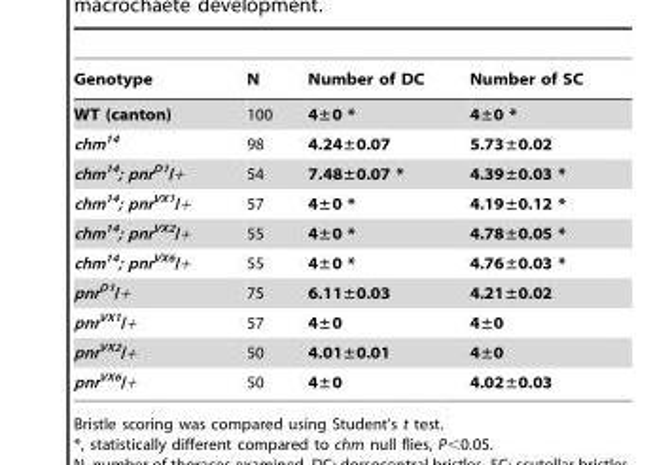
<table><thead><tr><td>Genotype</td><td>N</td><td>Number of DC</td><td>Number of SC</td></tr></thead><tbody><tr><td>WT (canton)</td><td>100</td><td>4±0 *</td><td>4±0 *</td></tr><tr><td>chm<sup>14</sup></td><td>98</td><td>4.24±0.07</td><td>5.73±0.02</td></tr><tr><td>chm<sup>14</sup>; pnr<sup>D1</sup>/+</td><td>54</td><td>7.48±0.07 *</td><td>4.39±0.03 *</td></tr><tr><td>chm<sup>14</sup>; pnr<sup>VX1</sup>/+</td><td>57</td><td>4±0 *</td><td>4.19±0.12 *</td></tr><tr><td>chm<sup>14</sup>; pnr<sup>VX2</sup>/+</td><td>55</td><td>4±0 *</td><td>4.78±0.05 *</td></tr><tr><td>chm<sup>14</sup>; pnr<sup>VX6</sup>/+</td><td>55</td><td>4±0 *</td><td>4.76±0.03 *</td></tr><tr><td>pnr<sup>D1</sup>/+</td><td>75</td><td>6.11±0.03</td><td>4.21±0.02</td></tr><tr><td>pnr<sup>VX1</sup>/+</td><td>57</td><td>4±0</td><td>4±0</td></tr><tr><td>pnr<sup>VX2</sup>/+</td><td>50</td><td>4.01±0.01</td><td>4±0</td></tr><tr><td>pnr<sup>VX6</sup>/+</td><td>50</td><td>4±0</td><td>4.02±0.03</td></tr></tbody></table>